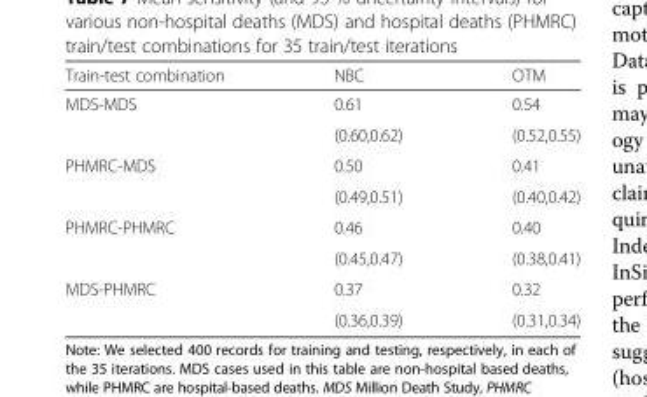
<table><thead><tr><td>Train-test combination</td><td>NBC</td><td>OTM</td></tr></thead><tbody><tr><td rowspan="2">MDS-MDS</td><td>0.61</td><td>0.54</td></tr><tr><td>(0.60,0.62)</td><td>(0.52,0.55)</td></tr><tr><td rowspan="2">PHMRC-MDS</td><td>0.50</td><td>0.41</td></tr><tr><td>(0.49,0.51)</td><td>(0.40,0.42)</td></tr><tr><td rowspan="2">PHMRC-PHMRC</td><td>0.46</td><td>0.40</td></tr><tr><td>(0.45,0.47)</td><td>(0.38,0.41)</td></tr><tr><td rowspan="2">MDS-PHMRC</td><td>0.37</td><td>0.32</td></tr><tr><td>(0.36,0.39)</td><td>(0.31,0.34)</td></tr></tbody></table>